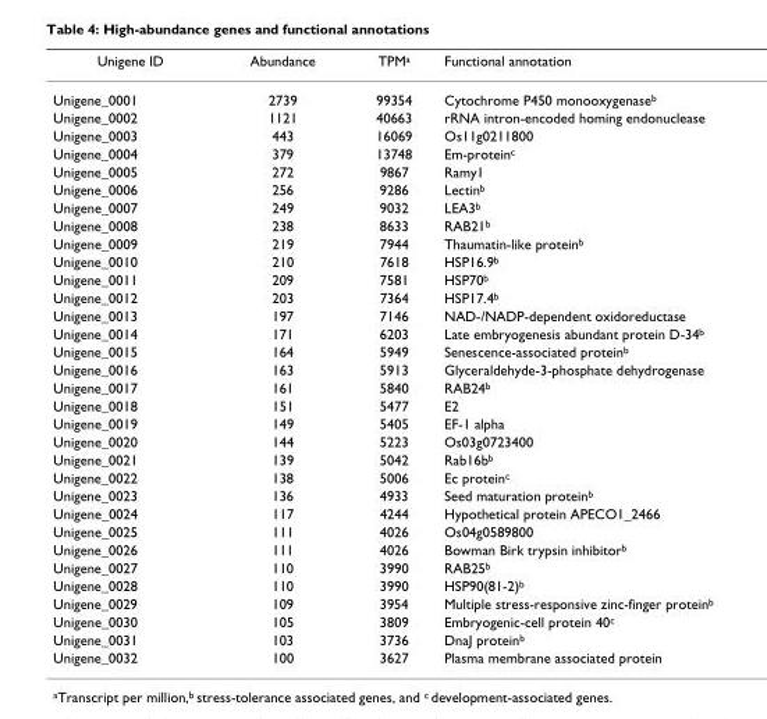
<table><thead><tr><td>Unigene ID</td><td>Abundance</td><td>TPM<sup>a</sup></td><td>Functional annotation</td></tr></thead><tbody><tr><td>Unigene_0001</td><td>2739</td><td>99354</td><td>Cytochrome P450 monooxygenase<sup>b</sup></td></tr><tr><td>Unigene_0002</td><td>1121</td><td>40663</td><td>rRNA intron-encoded homing endonuclease</td></tr><tr><td>Unigene_0003</td><td>443</td><td>16069</td><td>Os11g0211800</td></tr><tr><td>Unigene_0004</td><td>379</td><td>13748</td><td>Em-protein<sup>c</sup></td></tr><tr><td>Unigene_0005</td><td>272</td><td>9867</td><td>Ramy1</td></tr><tr><td>Unigene_0006</td><td>256</td><td>9286</td><td>Lectin<sup>b</sup></td></tr><tr><td>Unigene_0007</td><td>249</td><td>9032</td><td>LEA3<sup>b</sup></td></tr><tr><td>Unigene_0008</td><td>238</td><td>8633</td><td>RAB21<sup>b</sup></td></tr><tr><td>Unigene_0009</td><td>219</td><td>7944</td><td>Thaumatin-like protein<sup>b</sup></td></tr><tr><td>Unigene_0010</td><td>210</td><td>7618</td><td>HSP16.9<sup>b</sup></td></tr><tr><td>Unigene_0011</td><td>209</td><td>7581</td><td>HSP70<sup>b</sup></td></tr><tr><td>Unigene_0012</td><td>203</td><td>7364</td><td>HSP17.4<sup>b</sup></td></tr><tr><td>Unigene_0013</td><td>197</td><td>7146</td><td>NAD-/NADP-dependent oxidoreductase</td></tr><tr><td>Unigene_0014</td><td>171</td><td>6203</td><td>Late embryogenesis abundant protein D-34<sup>b</sup></td></tr><tr><td>Unigene_0015</td><td>164</td><td>5949</td><td>Senescence-associated protein<sup>b</sup></td></tr><tr><td>Unigene_0016</td><td>163</td><td>5913</td><td>Glyceraldehyde-3-phosphate dehydrogenase</td></tr><tr><td>Unigene_0017</td><td>161</td><td>5840</td><td>RAB24<sup>b</sup></td></tr><tr><td>Unigene_0018</td><td>151</td><td>5477</td><td>E2</td></tr><tr><td>Unigene_0019</td><td>149</td><td>5405</td><td>EF-1 alpha</td></tr><tr><td>Unigene_0020</td><td>144</td><td>5223</td><td>Os03g0723400</td></tr><tr><td>Unigene_0021</td><td>139</td><td>5042</td><td>Rab16b<sup>b</sup></td></tr><tr><td>Unigene_0022</td><td>138</td><td>5006</td><td>Ec protein<sup>c</sup></td></tr><tr><td>Unigene_0023</td><td>136</td><td>4933</td><td>Seed maturation protein<sup>b</sup></td></tr><tr><td>Unigene_0024</td><td>117</td><td>4244</td><td>Hypothetical protein APECO1_2466</td></tr><tr><td>Unigene_0025</td><td>111</td><td>4026</td><td>Os04g0589800</td></tr><tr><td>Unigene_0026</td><td>111</td><td>4026</td><td>Bowman Birk trypsin inhibitor<sup>b</sup></td></tr><tr><td>Unigene_0027</td><td>110</td><td>3990</td><td>RAB25<sup>b</sup></td></tr><tr><td>Unigene_0028</td><td>110</td><td>3990</td><td>HSP90(81-2)<sup>b</sup></td></tr><tr><td>Unigene_0029</td><td>109</td><td>3954</td><td>Multiple stress-responsive zinc-finger protein<sup>b</sup></td></tr><tr><td>Unigene_0030</td><td>105</td><td>3809</td><td>Embryogenic-cell protein 40<sup>c</sup></td></tr><tr><td>Unigene_0031</td><td>103</td><td>3736</td><td>DnaJ protein<sup>b</sup></td></tr><tr><td>Unigene_0032</td><td>100</td><td>3627</td><td>Plasma membrane associated protein</td></tr></tbody></table>